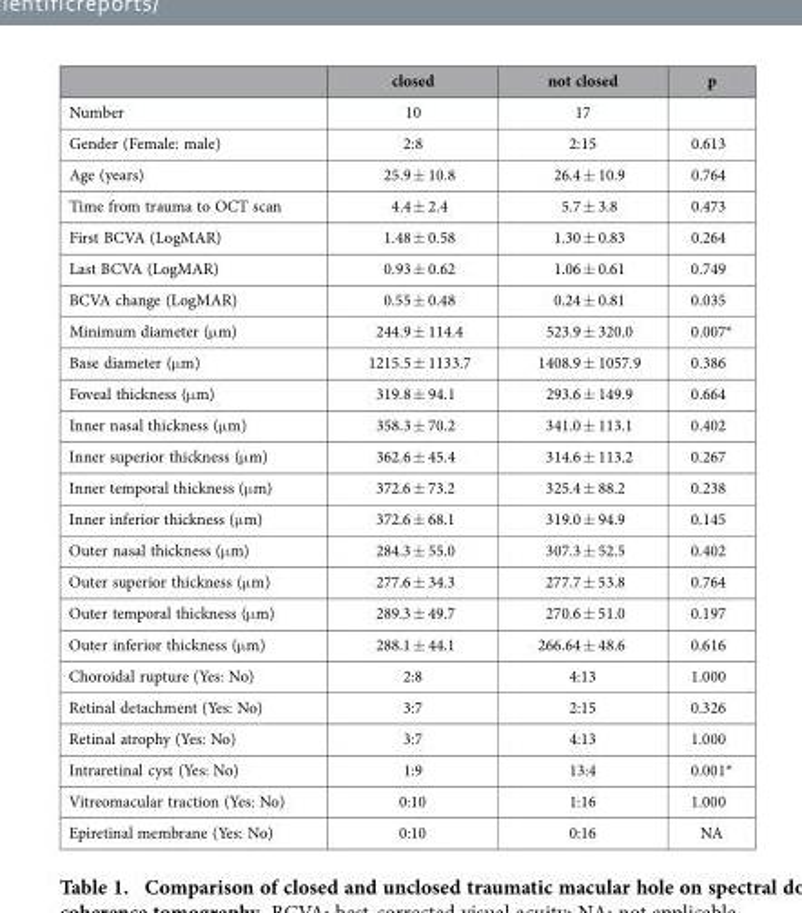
<table><thead><tr><td></td><td>closed</td><td>not closed</td><td>p</td></tr></thead><tbody><tr><td>Number</td><td>10</td><td>17</td><td></td></tr><tr><td>Gender (Female: male)</td><td>2:8</td><td>2:15</td><td>0.613</td></tr><tr><td>Age (years)</td><td>25.9 ± 10.8</td><td>26.4 ± 10.9</td><td>0.764</td></tr><tr><td>Time from trauma to OCT scan</td><td>4.4 ± 2.4</td><td>5.7 ± 3.8</td><td>0.473</td></tr><tr><td>First BCVA (LogMAR)</td><td>1.48 ± 0.58</td><td>1.30 ± 0.83</td><td>0.264</td></tr><tr><td>Last BCVA (LogMAR)</td><td>0.93 ± 0.62</td><td>1.06 ± 0.61</td><td>0.749</td></tr><tr><td>BCVA change (LogMAR)</td><td>0.55 ± 0.48</td><td>0.24 ± 0.81</td><td>0.035</td></tr><tr><td>Minimum diameter (μ m)</td><td>244.9 ± 114.4</td><td>523.9 ± 320.0</td><td>0.007*</td></tr><tr><td>Base diameter (μ m)</td><td>1215.5 ± 1133.7</td><td>1408.9 ± 1057.9</td><td>0.386</td></tr><tr><td>Foveal thickness (μ m)</td><td>319.8 ± 94.1</td><td>293.6 ± 149.9</td><td>0.664</td></tr><tr><td>Inner nasal thickness (μ m)</td><td>358.3 ± 70.2</td><td>341.0 ± 113.1</td><td>0.402</td></tr><tr><td>Inner superior thickness (μ m)</td><td>362.6 ± 45.4</td><td>314.6 ± 113.2</td><td>0.267</td></tr><tr><td>Inner temporal thickness (μ m)</td><td>372.6 ± 73.2</td><td>325.4 ± 88.2</td><td>0.238</td></tr><tr><td>Inner inferior thickness (μ m)</td><td>372.6 ± 68.1</td><td>319.0 ± 94.9</td><td>0.145</td></tr><tr><td>Outer nasal thickness (μ m)</td><td>284.3 ± 55.0</td><td>307.3 ± 52.5</td><td>0.402</td></tr><tr><td>Outer superior thickness (μ m)</td><td>277.6 ± 34.3</td><td>277.7 ± 53.8</td><td>0.764</td></tr><tr><td>Outer temporal thickness (μ m)</td><td>289.3 ± 49.7</td><td>270.6 ± 51.0</td><td>0.197</td></tr><tr><td>Outer inferior thickness (μ m)</td><td>288.1 ± 44.1</td><td>266.64 ± 48.6</td><td>0.616</td></tr><tr><td>Choroidal rupture (Yes: No)</td><td>2:8</td><td>4:13</td><td>1.000</td></tr><tr><td>Retinal detachment (Yes: No)</td><td>3:7</td><td>2:15</td><td>0.326</td></tr><tr><td>Retinal atrophy (Yes: No)</td><td>3:7</td><td>4:13</td><td>1.000</td></tr><tr><td>Intraretinal cyst (Yes: No)</td><td>1:9</td><td>13:4</td><td>0.001*</td></tr><tr><td>Vitreomacular traction (Yes: No)</td><td>0:10</td><td>1:16</td><td>1.000</td></tr><tr><td>Epiretinal membrane (Yes: No)</td><td>0:10</td><td>0:16</td><td>NA</td></tr></tbody></table>